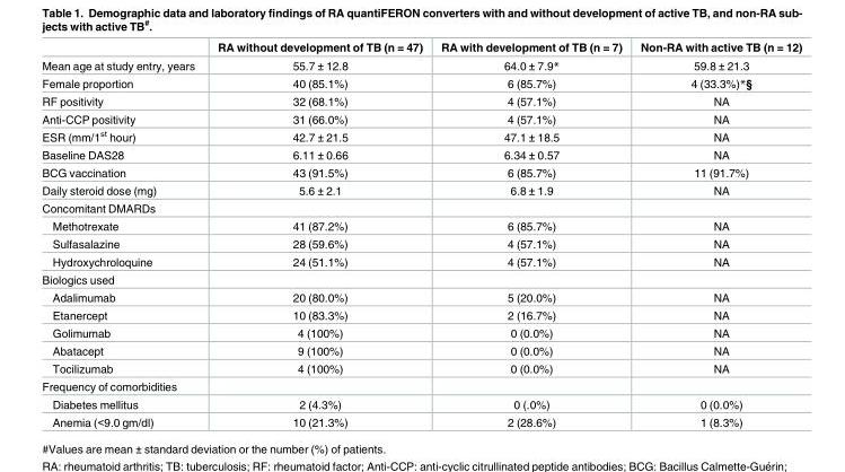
<table><thead><tr><td></td><td>RA without development of TB (n = 47)</td><td>RA with development of TB (n = 7)</td><td>Non-RA with active TB (n = 12)</td></tr></thead><tbody><tr><td>Mean age at study entry, years</td><td>55.7 ± 12.8</td><td>64.0 ± 7.9*</td><td>59.8 ± 21.3</td></tr><tr><td>Female proportion</td><td>40 (85.1%)</td><td>6 (85.7%)</td><td>4 (33.3%)*§</td></tr><tr><td>RF positivity</td><td>32 (68.1%)</td><td>4 (57.1%)</td><td>NA</td></tr><tr><td>Anti-CCP positivity</td><td>31 (66.0%)</td><td>4 (57.1%)</td><td>NA</td></tr><tr><td>ESR (mm/1<sup>st</sup> hour)</td><td>42.7 ± 21.5</td><td>47.1 ± 18.5</td><td>NA</td></tr><tr><td>Baseline DAS28</td><td>6.11 ± 0.66</td><td>6.34 ± 0.57</td><td>NA</td></tr><tr><td>BCG vaccination</td><td>43 (91.5%)</td><td>6 (85.7%)</td><td>11 (91.7%)</td></tr><tr><td>Daily steroid dose (mg)</td><td>5.6 ± 2.1</td><td>6.8 ± 1.9</td><td>NA</td></tr><tr><td colspan="4">Concomitant DMARDs</td></tr><tr><td>Methotrexate</td><td>41 (87.2%)</td><td>6 (85.7%)</td><td>NA</td></tr><tr><td>Sulfasalazine</td><td>28 (59.6%)</td><td>4 (57.1%)</td><td>NA</td></tr><tr><td>Hydroxychroloquine</td><td>24 (51.1%)</td><td>4 (57.1%)</td><td>NA</td></tr><tr><td colspan="4">Biologics used</td></tr><tr><td>Adalimumab</td><td>20 (80.0%)</td><td>5 (20.0%)</td><td>NA</td></tr><tr><td>Etanercept</td><td>10 (83.3%)</td><td>2 (16.7%)</td><td>NA</td></tr><tr><td>Golimumab</td><td>4 (100%)</td><td>0 (0.0%)</td><td>NA</td></tr><tr><td>Abatacept</td><td>9 (100%)</td><td>0 (0.0%)</td><td>NA</td></tr><tr><td>Tocilizumab</td><td>4 (100%)</td><td>0 (0.0%)</td><td>NA</td></tr><tr><td colspan="4">Frequency of comorbidities</td></tr><tr><td>Diabetes mellitus</td><td>2 (4.3%)</td><td>0 (.0%)</td><td>0 (0.0%)</td></tr><tr><td>Anemia (&lt;9.0 gm/dl)</td><td>10 (21.3%)</td><td>2 (28.6%)</td><td>1 (8.3%)</td></tr></tbody></table>